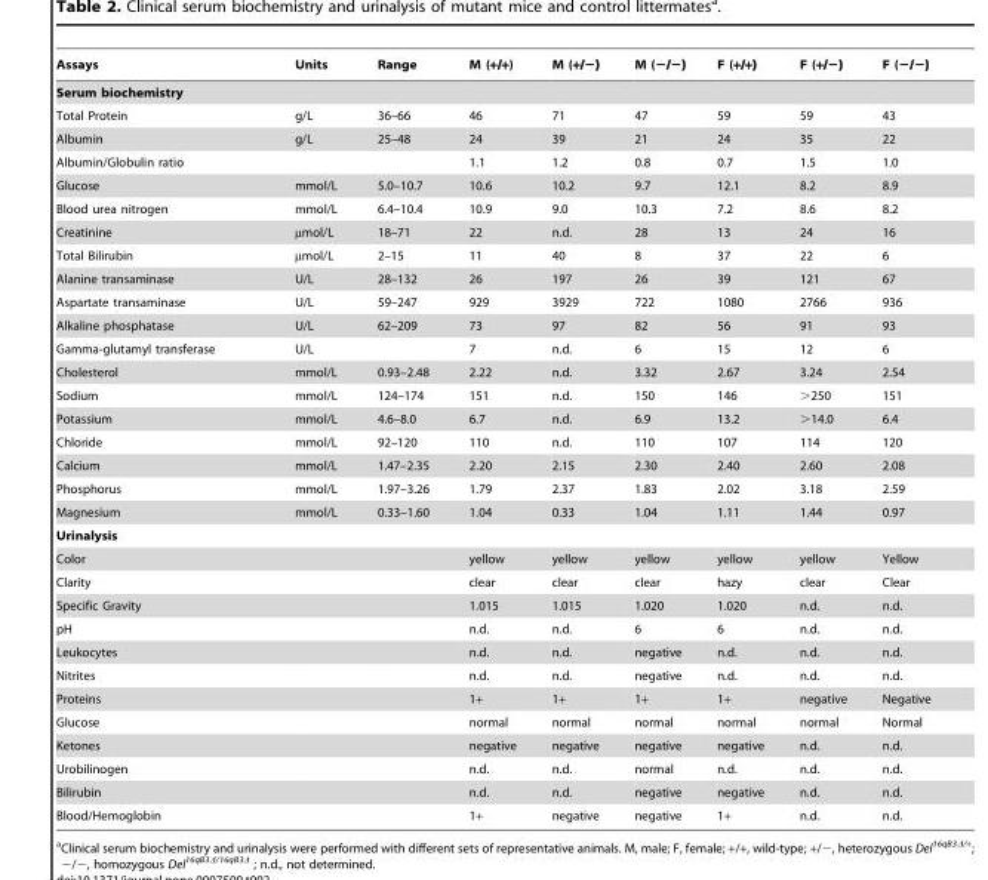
<table><thead><tr><td>Assays</td><td>Units</td><td>Range</td><td>M (+/+)</td><td>M (+/−)</td><td>M (−/−)</td><td>F (+/+)</td><td>F (+/−)</td><td>F (−/−)</td></tr></thead><tbody><tr><td colspan="9">Serum biochemistry</td></tr><tr><td>Total Protein</td><td>g/L</td><td>36–66</td><td>46</td><td>71</td><td>47</td><td>59</td><td>59</td><td>43</td></tr><tr><td>Albumin</td><td>g/L</td><td>25–48</td><td>24</td><td>39</td><td>21</td><td>24</td><td>35</td><td>22</td></tr><tr><td>Albumin/Globulin ratio</td><td></td><td></td><td>1.1</td><td>1.2</td><td>0.8</td><td>0.7</td><td>1.5</td><td>1.0</td></tr><tr><td>Glucose</td><td>mmol/L</td><td>5.0–10.7</td><td>10.6</td><td>10.2</td><td>9.7</td><td>12.1</td><td>8.2</td><td>8.9</td></tr><tr><td>Blood urea nitrogen</td><td>mmol/L</td><td>6.4–10.4</td><td>10.9</td><td>9.0</td><td>10.3</td><td>7.2</td><td>8.6</td><td>8.2</td></tr><tr><td>Creatinine</td><td>µmol/L</td><td>18–71</td><td>22</td><td>n.d.</td><td>28</td><td>13</td><td>24</td><td>16</td></tr><tr><td>Total Bilirubin</td><td>µmol/L</td><td>2–15</td><td>11</td><td>40</td><td>8</td><td>37</td><td>22</td><td>6</td></tr><tr><td>Alanine transaminase</td><td>U/L</td><td>28–132</td><td>26</td><td>197</td><td>26</td><td>39</td><td>121</td><td>67</td></tr><tr><td>Aspartate transaminase</td><td>U/L</td><td>59–247</td><td>929</td><td>3929</td><td>722</td><td>1080</td><td>2766</td><td>936</td></tr><tr><td>Alkaline phosphatase</td><td>U/L</td><td>62–209</td><td>73</td><td>97</td><td>82</td><td>56</td><td>91</td><td>93</td></tr><tr><td>Gamma-glutamyl transferase</td><td>U/L</td><td></td><td>7</td><td>n.d.</td><td>6</td><td>15</td><td>12</td><td>6</td></tr><tr><td>Cholesterol</td><td>mmol/L</td><td>0.93–2.48</td><td>2.22</td><td>n.d.</td><td>3.32</td><td>2.67</td><td>3.24</td><td>2.54</td></tr><tr><td>Sodium</td><td>mmol/L</td><td>124–174</td><td>151</td><td>n.d.</td><td>150</td><td>146</td><td>&gt;250</td><td>151</td></tr><tr><td>Potassium</td><td>mmol/L</td><td>4.6–8.0</td><td>6.7</td><td>n.d.</td><td>6.9</td><td>13.2</td><td>&gt;14.0</td><td>6.4</td></tr><tr><td>Chloride</td><td>mmol/L</td><td>92–120</td><td>110</td><td>n.d.</td><td>110</td><td>107</td><td>114</td><td>120</td></tr><tr><td>Calcium</td><td>mmol/L</td><td>1.47–2.35</td><td>2.20</td><td>2.15</td><td>2.30</td><td>2.40</td><td>2.60</td><td>2.08</td></tr><tr><td>Phosphorus</td><td>mmol/L</td><td>1.97–3.26</td><td>1.79</td><td>2.37</td><td>1.83</td><td>2.02</td><td>3.18</td><td>2.59</td></tr><tr><td>Magnesium</td><td>mmol/L</td><td>0.33–1.60</td><td>1.04</td><td>0.33</td><td>1.04</td><td>1.11</td><td>1.44</td><td>0.97</td></tr><tr><td colspan="9">Urinalysis</td></tr><tr><td>Color</td><td></td><td></td><td>yellow</td><td>yellow</td><td>yellow</td><td>yellow</td><td>yellow</td><td>Yellow</td></tr><tr><td>Clarity</td><td></td><td></td><td>clear</td><td>clear</td><td>clear</td><td>hazy</td><td>clear</td><td>Clear</td></tr><tr><td>Specific Gravity</td><td></td><td></td><td>1.015</td><td>1.015</td><td>1.020</td><td>1.020</td><td>n.d.</td><td>n.d.</td></tr><tr><td>pH</td><td></td><td></td><td>n.d.</td><td>n.d.</td><td>6</td><td>6</td><td>n.d.</td><td>n.d.</td></tr><tr><td>Leukocytes</td><td></td><td></td><td>n.d.</td><td>n.d.</td><td>negative</td><td>n.d.</td><td>n.d.</td><td>n.d.</td></tr><tr><td>Nitrites</td><td></td><td></td><td>n.d.</td><td>n.d.</td><td>negative</td><td>n.d.</td><td>n.d.</td><td>n.d.</td></tr><tr><td>Proteins</td><td></td><td></td><td>1+</td><td>1+</td><td>1+</td><td>1+</td><td>negative</td><td>Negative</td></tr><tr><td>Glucose</td><td></td><td></td><td>normal</td><td>normal</td><td>normal</td><td>normal</td><td>normal</td><td>Normal</td></tr><tr><td>Ketones</td><td></td><td></td><td>negative</td><td>negative</td><td>negative</td><td>negative</td><td>n.d.</td><td>n.d.</td></tr><tr><td>Urobilinogen</td><td></td><td></td><td>n.d.</td><td>n.d.</td><td>normal</td><td>n.d.</td><td>n.d.</td><td>n.d.</td></tr><tr><td>Bilirubin</td><td></td><td></td><td>n.d.</td><td>n.d.</td><td>negative</td><td>negative</td><td>n.d.</td><td>n.d.</td></tr><tr><td>Blood/Hemoglobin</td><td></td><td></td><td>1+</td><td>negative</td><td>negative</td><td>1+</td><td>n.d.</td><td>n.d.</td></tr></tbody></table>